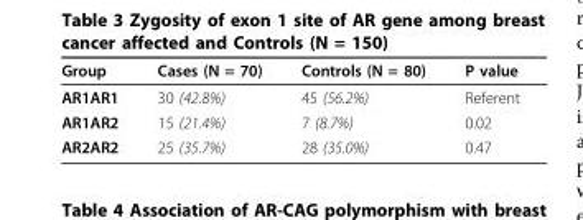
<table><thead><tr><td>Group</td><td>Cases (N = 70)</td><td>Controls (N = 80)</td><td>P value</td></tr></thead><tbody><tr><td>AR1AR1</td><td>30 (42.8%)</td><td>45 (56.2%)</td><td>Referent</td></tr><tr><td>AR1AR2</td><td>15 (21.4%)</td><td>7 (8.7%)</td><td>0.02</td></tr><tr><td>AR2AR2</td><td>25 (35.7%)</td><td>28 (35.0%)</td><td>0.47</td></tr></tbody></table>